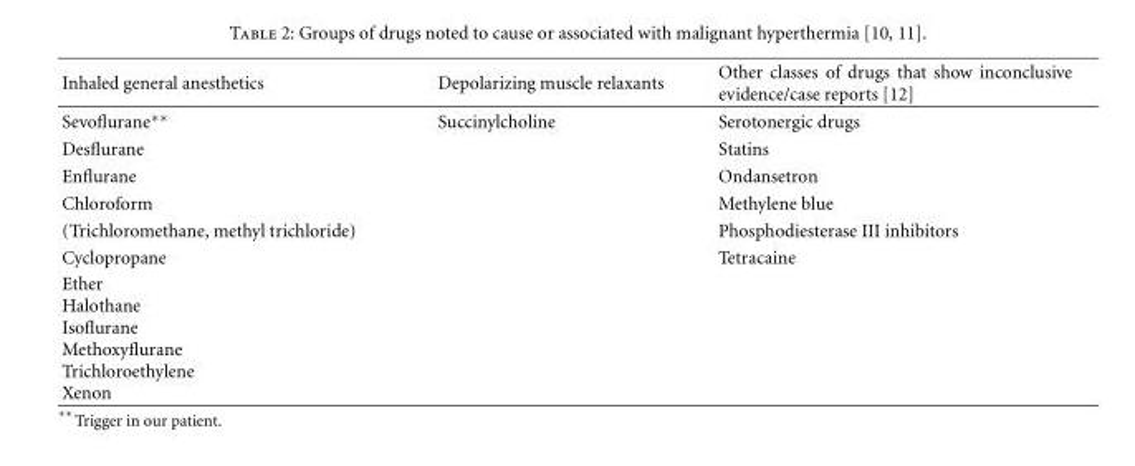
<table><thead><tr><td>Inhaled general anesthetics</td><td>Depolarizing muscle relaxants</td><td>Other classes of drugs that show inconclusive evidence/case reports [12]</td></tr></thead><tbody><tr><td>Sevoflurane∗∗</td><td>Succinylcholine</td><td>Serotonergic drugs</td></tr><tr><td>Desflurane</td><td></td><td>Statins</td></tr><tr><td>Enflurane</td><td></td><td>Ondansetron</td></tr><tr><td>Chloroform</td><td></td><td>Methylene blue</td></tr><tr><td>(Trichloromethane, methyl trichloride)</td><td></td><td>Phosphodiesterase III inhibitors</td></tr><tr><td>Cyclopropane</td><td></td><td>Tetracaine</td></tr><tr><td>Ether Halothane Isoflurane Methoxyflurane Trichloroethylene Xenon</td><td></td><td></td></tr></tbody></table>